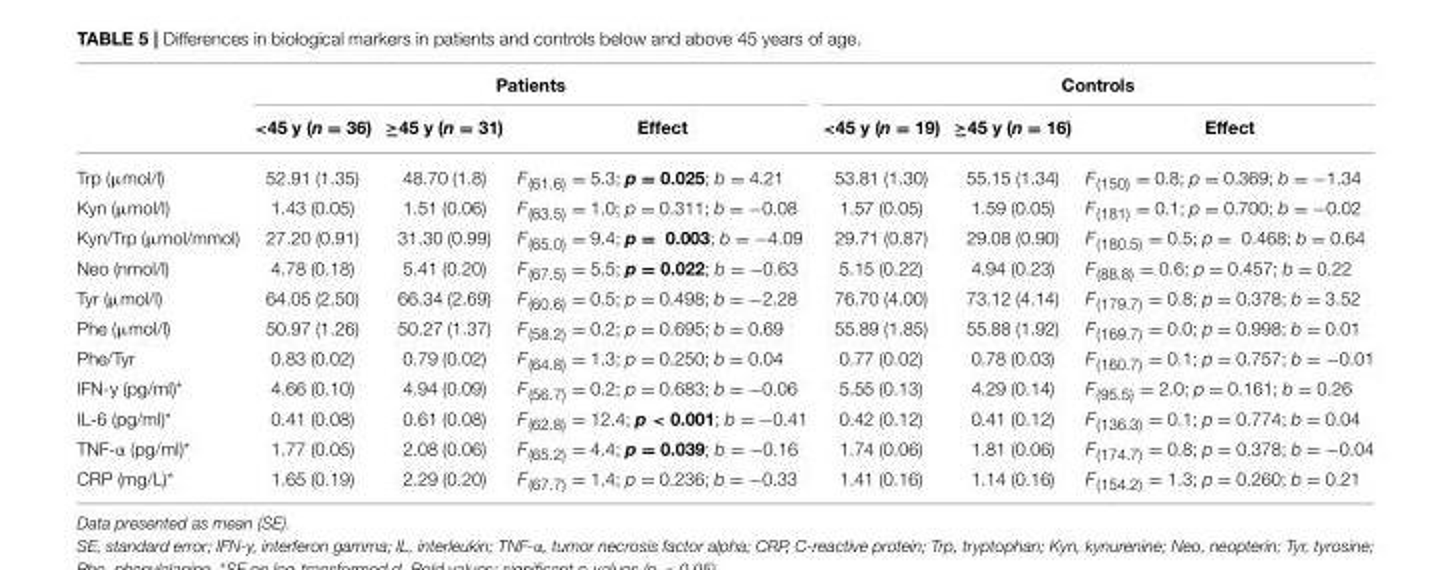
<table><thead><tr><td rowspan="2"></td><td colspan="3">Patients</td><td colspan="3">Controls</td></tr><tr><td>&lt;45 y (n = 36)</td><td>≥45 y (n = 31)</td><td>Effect</td><td>&lt;45 y (n = 19)</td><td>≥45 y (n = 16)</td><td>Effect</td></tr></thead><tbody><tr><td>Trp (µmol/l)</td><td>52.91 (1.35)</td><td>48.70 (1.8)</td><td>F<sub>(61.6)</sub> = 5.3; p = 0.025; b = 4.21</td><td>53.81 (1.30)</td><td>55.15 (1.34)</td><td>F<sub>(150)</sub> = 0.8; p = 0.369; b = −1.34</td></tr><tr><td>Kyn (µmol/l)</td><td>1.43 (0.05)</td><td>1.51 (0.06)</td><td>F<sub>(63.5)</sub> = 1.0; p = 0.311; b = −0.08</td><td>1.57 (0.05)</td><td>1.59 (0.05)</td><td>F<sub>(181)</sub> = 0.1; p = 0.700; b = −0.02</td></tr><tr><td>Kyn/Trp (µmol/mmol)</td><td>27.20 (0.91)</td><td>31.30 (0.99)</td><td>F<sub>(65.0)</sub> = 9.4; p = 0.003; b = −4.09</td><td>29.71 (0.87)</td><td>29.08 (0.90)</td><td>F<sub>(180.5)</sub> = 0.5; p = 0.468; b = 0.64</td></tr><tr><td>Neo (nmol/l)</td><td>4.78 (0.18)</td><td>5.41 (0.20)</td><td>F<sub>(67.5)</sub> = 5.5; p = 0.022; b = −0.63</td><td>5.15 (0.22)</td><td>4.94 (0.23)</td><td>F<sub>(88.8)</sub> = 0.6; p = 0.457; b = 0.22</td></tr><tr><td>Tyr (µmol/l)</td><td>64.05 (2.50)</td><td>66.34 (2.69)</td><td>F<sub>(60.6)</sub> = 0.5; p = 0.498; b = −2.28</td><td>76.70 (4.00)</td><td>73.12 (4.14)</td><td>F<sub>(179.7)</sub> = 0.8; p = 0.378; b = 3.52</td></tr><tr><td>Phe (µmol/l)</td><td>50.97 (1.26)</td><td>50.27 (1.37)</td><td>F<sub>(58.2)</sub> = 0.2; p = 0.695; b = 0.69</td><td>55.89 (1.85)</td><td>55.88 (1.92)</td><td>F<sub>(169.7)</sub> = 0.0; p = 0.998; b = 0.01</td></tr><tr><td>Phe/Tyr</td><td>0.83 (0.02)</td><td>0.79 (0.02)</td><td>F<sub>(64.8)</sub> = 1.3; p = 0.250; b = 0.04</td><td>0.77 (0.02)</td><td>0.78 (0.03)</td><td>F<sub>(160.7)</sub> = 0.1; p = 0.757; b = −0.01</td></tr><tr><td>IFN-y (pg/ml)*</td><td>4.66 (0.10)</td><td>4.94 (0.09)</td><td>F<sub>(56.7)</sub> = 0.2; p = 0.683; b = −0.06</td><td>5.55 (0.13)</td><td>4.29 (0.14)</td><td>F<sub>(95.5)</sub> = 2.0; p = 0.161; b = 0.26</td></tr><tr><td>IL-6 (pg/ml)*</td><td>0.41 (0.08)</td><td>0.61 (0.08)</td><td>F<sub>(62.8)</sub> = 12.4; p &lt; 0.001; b = −0.41</td><td>0.42 (0.12)</td><td>0.41 (0.12)</td><td>F<sub>(136.3)</sub> = 0.1; p = 0.774; b = 0.04</td></tr><tr><td>TNF-α (pg/ml)*</td><td>1.77 (0.05)</td><td>2.08 (0.06)</td><td>F<sub>(65.2)</sub> = 4.4; p = 0.039; b = −0.16</td><td>1.74 (0.06)</td><td>1.81 (0.06)</td><td>F<sub>(174.7)</sub> = 0.8; p = 0.378; b = −0.04</td></tr><tr><td>CRP (mg/L)*</td><td>1.65 (0.19)</td><td>2.29 (0.20)</td><td>F<sub>(67.7)</sub> = 1.4; p = 0.236; b = −0.33</td><td>1.41 (0.16)</td><td>1.14 (0.16)</td><td>F<sub>(154.2)</sub> = 1.3; p = 0.260; b = 0.21</td></tr></tbody></table>